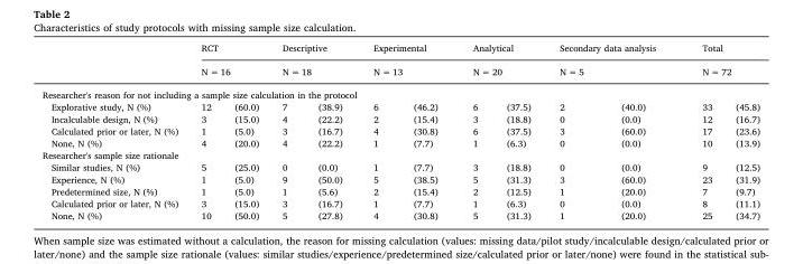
<table><thead><tr><td rowspan="2"></td><td rowspan="2" colspan="2">RCT N = 16</td><td rowspan="2" colspan="2">Descriptive N = 18</td><td rowspan="2" colspan="2">Experimental N = 13</td><td rowspan="2" colspan="2">Analytical N = 20</td><td rowspan="2" colspan="2">Secondary data analysis N = 5</td><td rowspan="2" colspan="2">Total N = 72</td></tr><tr></tr><tr><td colspan="13">Researcher&#x27;s reason for not including a sample size calculation in the protocol</td></tr><tr><td>Explorative study, N (%)</td><td>12</td><td>(60.0)</td><td>7</td><td>(38.9)</td><td>6</td><td>(46.2)</td><td>6</td><td>(37.5)</td><td>2</td><td>(40.0)</td><td>33</td><td>(45.8)</td></tr></thead><tbody><tr><td>Incalculable design, N (%)</td><td>3</td><td>(15.0)</td><td>4</td><td>(22.2)</td><td>2</td><td>(15.4)</td><td>3</td><td>(18.8)</td><td>0</td><td>(0.0)</td><td>12</td><td>(16.7)</td></tr><tr><td>Calculated prior or later, N (%)</td><td>1</td><td>(5.0)</td><td>3</td><td>(16.7)</td><td>4</td><td>(30.8)</td><td>6</td><td>(37.5)</td><td>3</td><td>(60.0)</td><td>17</td><td>(23.6)</td></tr><tr><td>None, N (%)</td><td>4</td><td>(20.0)</td><td>4</td><td>(22.2)</td><td>1</td><td>(7.7)</td><td>1</td><td>(6.3)</td><td>0</td><td>(0.0)</td><td>10</td><td>(13.9)</td></tr><tr><td colspan="13">Researcher&#x27;s sample size rationale</td></tr><tr><td>Similar studies, N (%)</td><td>5</td><td>(25.0)</td><td>0</td><td>(0.0)</td><td>1</td><td>(7.7)</td><td>3</td><td>(18.8)</td><td>0</td><td>(0.0)</td><td>9</td><td>(12.5)</td></tr><tr><td>Experience, N (%)</td><td>1</td><td>(5.0)</td><td>9</td><td>(50.0)</td><td>5</td><td>(38.5)</td><td>5</td><td>(31.3)</td><td>3</td><td>(60.0)</td><td>23</td><td>(31.9)</td></tr><tr><td>Predetermined size, N (%)</td><td>1</td><td>(5.0)</td><td>1</td><td>(5.6)</td><td>2</td><td>(15.4)</td><td>2</td><td>(12.5)</td><td>1</td><td>(20.0)</td><td>7</td><td>(9.7)</td></tr><tr><td>Calculated prior or later, N (%)</td><td>3</td><td>(15.0)</td><td>3</td><td>(16.7)</td><td>1</td><td>(7.7)</td><td>1</td><td>(6.3)</td><td>0</td><td>(0.0)</td><td>8</td><td>(11.1)</td></tr><tr><td>None, N (%)</td><td>10</td><td>(50.0)</td><td>5</td><td>(27.8)</td><td>4</td><td>(30.8)</td><td>5</td><td>(31.3)</td><td>1</td><td>(20.0)</td><td>25</td><td>(34.7)</td></tr></tbody></table>